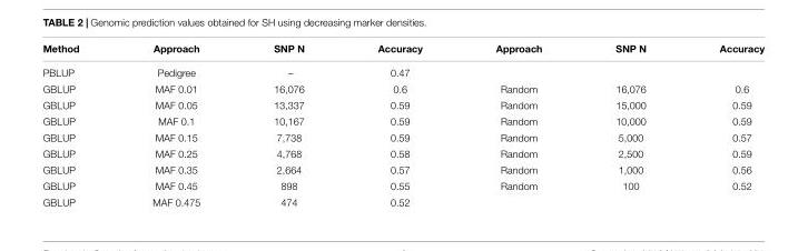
<table><thead><tr><td>Method</td><td>Approach</td><td>SNP N</td><td>Accuracy</td><td>Approach</td><td>SNP N</td><td>Accuracy</td></tr></thead><tbody><tr><td>PBLUP</td><td>Pedigree</td><td>–</td><td>0.47</td><td></td><td></td><td></td></tr><tr><td>GBLUP</td><td>MAF 0.01</td><td>16,076</td><td>0.6</td><td>Random</td><td>16,076</td><td>0.6</td></tr><tr><td>GBLUP</td><td>MAF 0.05</td><td>13,337</td><td>0.59</td><td>Random</td><td>15,000</td><td>0.59</td></tr><tr><td>GBLUP</td><td>MAF 0.1</td><td>10,167</td><td>0.59</td><td>Random</td><td>10,000</td><td>0.59</td></tr><tr><td>GBLUP</td><td>MAF 0.15</td><td>7,738</td><td>0.59</td><td>Random</td><td>5,000</td><td>0.57</td></tr><tr><td>GBLUP</td><td>MAF 0.25</td><td>4,768</td><td>0.58</td><td>Random</td><td>2,500</td><td>0.59</td></tr><tr><td>GBLUP</td><td>MAF 0.35</td><td>2,664</td><td>0.57</td><td>Random</td><td>1,000</td><td>0.56</td></tr><tr><td>GBLUP</td><td>MAF 0.45</td><td>898</td><td>0.55</td><td>Random</td><td>100</td><td>0.52</td></tr><tr><td>GBLUP</td><td>MAF 0.475</td><td>474</td><td>0.52</td><td></td><td></td><td></td></tr></tbody></table>